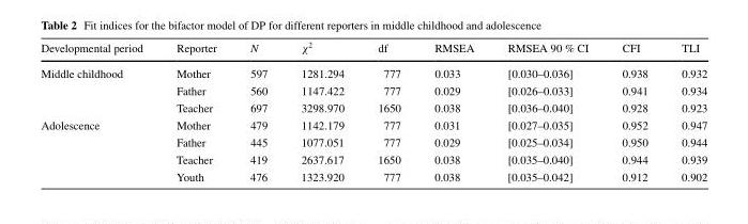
<table><thead><tr><td>Developmental period</td><td>Reporter</td><td>N</td><td>χ<sup>2</sup></td><td>df</td><td>RMSEA</td><td>RMSEA 90 % CI</td><td>CFI</td><td>TLI</td></tr></thead><tbody><tr><td rowspan="3">Middle childhood</td><td>Mother</td><td>597</td><td>1281.294</td><td>777</td><td>0.033</td><td>[0.030–0.036]</td><td>0.938</td><td>0.932</td></tr><tr><td>Father</td><td>560</td><td>1147.422</td><td>777</td><td>0.029</td><td>[0.026–0.033]</td><td>0.941</td><td>0.934</td></tr><tr><td>Teacher</td><td>697</td><td>3298.970</td><td>1650</td><td>0.038</td><td>[0.036–0.040]</td><td>0.928</td><td>0.923</td></tr><tr><td rowspan="4">Adolescence</td><td>Mother</td><td>479</td><td>1142.179</td><td>777</td><td>0.031</td><td>[0.027–0.035]</td><td>0.952</td><td>0.947</td></tr><tr><td>Father</td><td>445</td><td>1077.051</td><td>777</td><td>0.029</td><td>[0.025–0.034]</td><td>0.950</td><td>0.944</td></tr><tr><td>Teacher</td><td>419</td><td>2637.617</td><td>1650</td><td>0.038</td><td>[0.035–0.040]</td><td>0.944</td><td>0.939</td></tr><tr><td>Youth</td><td>476</td><td>1323.920</td><td>777</td><td>0.038</td><td>[0.035–0.042]</td><td>0.912</td><td>0.902</td></tr></tbody></table>